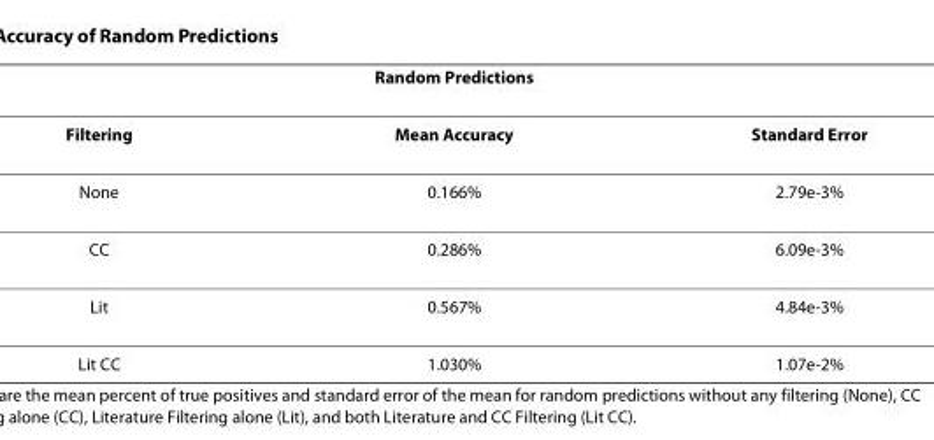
<table><thead><tr><td colspan="3">Random Predictions</td></tr><tr><td>Filtering</td><td>Mean Accuracy</td><td>Standard Error</td></tr></thead><tbody><tr><td>None</td><td>0.166%</td><td>2.79e-3%</td></tr><tr><td>CC</td><td>0.286%</td><td>6.09e-3%</td></tr><tr><td>Lit</td><td>0.567%</td><td>4.84e-3%</td></tr><tr><td>Lit CC</td><td>1.030%</td><td>1.07e-2%</td></tr></tbody></table>